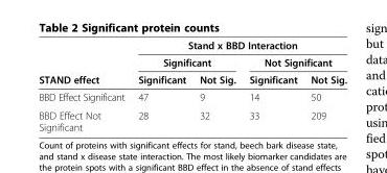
<table><thead><tr><td rowspan="3">STAND effect</td><td colspan="4">Stand x BBD Interaction</td></tr><tr><td colspan="2">Significant</td><td colspan="2">Not Significant</td></tr><tr><td>Significant</td><td>Not Sig.</td><td>Significant</td><td>Not Sig.</td></tr></thead><tbody><tr><td>BBD Effect Significant</td><td>47</td><td>9</td><td>14</td><td>50</td></tr><tr><td>BBD Effect Not Significant</td><td>28</td><td>32</td><td>33</td><td>209</td></tr></tbody></table>